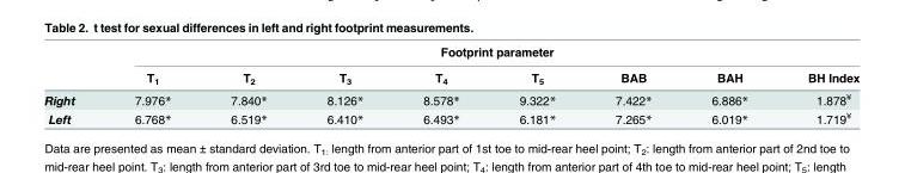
<table><thead><tr><td rowspan="2"></td><td colspan="8">Footprint parameter</td></tr><tr><td>T<sub>1</sub></td><td>T<sub>2</sub></td><td>T<sub>3</sub></td><td>T<sub>4</sub></td><td>T<sub>5</sub></td><td>BAB</td><td>BAH</td><td>BH Index</td></tr></thead><tbody><tr><td>Right</td><td>7.976*</td><td>7.840*</td><td>8.126*</td><td>8.578*</td><td>9.322*</td><td>7.422*</td><td>6.886*</td><td>1.878<sup>¥</sup></td></tr><tr><td>Left</td><td>6.768*</td><td>6.519*</td><td>6.410*</td><td>6.493*</td><td>6.181*</td><td>7.265*</td><td>6.019*</td><td>1.719<sup>¥</sup></td></tr></tbody></table>